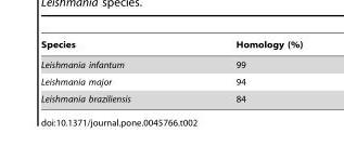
<table><thead><tr><td>Species</td><td>Homology (%)</td></tr></thead><tbody><tr><td>Leishmania infantum</td><td>99</td></tr><tr><td>Leishmania major</td><td>94</td></tr><tr><td>Leishmania braziliensis</td><td>84</td></tr></tbody></table>